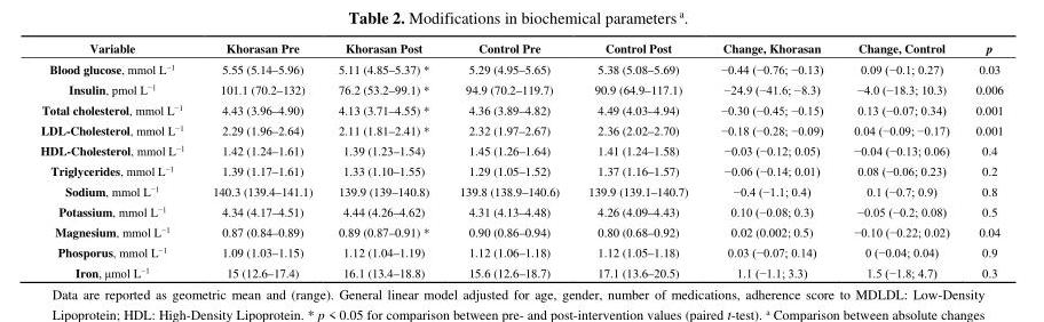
<table><thead><tr><td>Variable</td><td>Khorasan Pre</td><td>Khorasan Post</td><td>Control Pre</td><td>Control Post</td><td>Change, Khorasan</td><td>Change, Control</td><td>p</td></tr></thead><tbody><tr><td>Blood glucose, mmol L<sup>−1</sup></td><td>5.55 (5.14–5.96)</td><td>5.11 (4.85–5.37) *</td><td>5.29 (4.95–5.65)</td><td>5.38 (5.08–5.69)</td><td>−0.44 (−0.76; −0.13)</td><td>0.09 (−0.1; 0.27)</td><td>0.03</td></tr><tr><td>Insulin, pmol L<sup>−1</sup></td><td>101.1 (70.2–132)</td><td>76.2 (53.2–99.1) *</td><td>94.9 (70.2–119.7)</td><td>90.9 (64.9–117.1)</td><td>−24.9 (−41.6; −8.3)</td><td>−4.0 (−18.3; 10.3)</td><td>0.006</td></tr><tr><td>Total cholesterol, mmol L<sup>−1</sup></td><td>4.43 (3.96–4.90)</td><td>4.13 (3.71–4.55) *</td><td>4.36 (3.89–4.82)</td><td>4.49 (4.03–4.94)</td><td>−0.30 (−0.45; −0.15)</td><td>0.13 (−0.07; 0.34)</td><td>0.001</td></tr><tr><td>LDL-Cholesterol, mmol L<sup>−1</sup></td><td>2.29 (1.96–2.64)</td><td>2.11 (1.81–2.41) *</td><td>2.32 (1.97–2.67)</td><td>2.36 (2.02–2.70)</td><td>−0.18 (−0.28; −0.09)</td><td>0.04 (−0.09; −0.17)</td><td>0.001</td></tr><tr><td>HDL-Cholesterol, mmol L<sup>−1</sup></td><td>1.42 (1.24–1.61)</td><td>1.39 (1.23–1.54)</td><td>1.45 (1.26–1.64)</td><td>1.41 (1.24–1.58)</td><td>−0.03 (−0.12; 0.05)</td><td>−0.04 (−0.13; 0.06)</td><td>0.4</td></tr><tr><td>Triglycerides, mmol L<sup>−1</sup></td><td>1.39 (1.17–1.61)</td><td>1.33 (1.10–1.55)</td><td>1.29 (1.05–1.52)</td><td>1.37 (1.16–1.57)</td><td>−0.06 (−0.14; 0.01)</td><td>0.08 (−0.06; 0.23)</td><td>0.2</td></tr><tr><td>Sodium, mmol L<sup>−1</sup></td><td>140.3 (139.4–141.1)</td><td>139.9 (139–140.8)</td><td>139.8 (138.9–140.6)</td><td>139.9 (139.1–140.7)</td><td>−0.4 (−1.1; 0.4)</td><td>0.1 (−0.7; 0.9)</td><td>0.8</td></tr><tr><td>Potassium, mmol L<sup>−1</sup></td><td>4.34 (4.17–4.51)</td><td>4.44 (4.26–4.62)</td><td>4.31 (4.13–4.48)</td><td>4.26 (4.09–4.43)</td><td>0.10 (−0.08; 0.3)</td><td>−0.05 (−0.2; 0.08)</td><td>0.5</td></tr><tr><td>Magnesium, mmol L<sup>−1</sup></td><td>0.87 (0.84–0.89)</td><td>0.89 (0.87–0.91) *</td><td>0.90 (0.86–0.94)</td><td>0.80 (0.68–0.92)</td><td>0.02 (0.002; 0.5)</td><td>−0.10 (−0.22; 0.02)</td><td>0.04</td></tr><tr><td>Phosporus, mmol L<sup>−1</sup></td><td>1.09 (1.03–1.15)</td><td>1.12 (1.04–1.19)</td><td>1.12 (1.06–1.18)</td><td>1.12 (1.05–1.18)</td><td>0.03 (−0.07; 0.14)</td><td>0 (−0.04; 0.04)</td><td>0.9</td></tr><tr><td>Iron, μmol L<sup>−1</sup></td><td>15 (12.6–17.4)</td><td>16.1 (13.4–18.8)</td><td>15.6 (12.6–18.7)</td><td>17.1 (13.6–20.5)</td><td>1.1 (−1.1; 3.3)</td><td>1.5 (−1.8; 4.7)</td><td>0.3</td></tr></tbody></table>